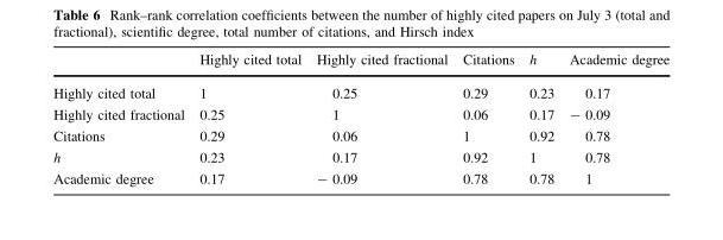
<table><thead><tr><td></td><td>Highly cited total</td><td>Highly cited fractional</td><td>Citations</td><td>h</td><td>Academic degree</td></tr></thead><tbody><tr><td>Highly cited total</td><td>1</td><td>0.25</td><td>0.29</td><td>0.23</td><td>0.17</td></tr><tr><td>Highly cited fractional</td><td>0.25</td><td>1</td><td>0.06</td><td>0.17</td><td>- 0.09</td></tr><tr><td>Citations</td><td>0.29</td><td>0.06</td><td>1</td><td>0.92</td><td>0.78</td></tr><tr><td>h</td><td>0.23</td><td>0.17</td><td>0.92</td><td>1</td><td>0.78</td></tr><tr><td>Academic degree</td><td>0.17</td><td>- 0.09</td><td>0.78</td><td>0.78</td><td>1</td></tr></tbody></table>